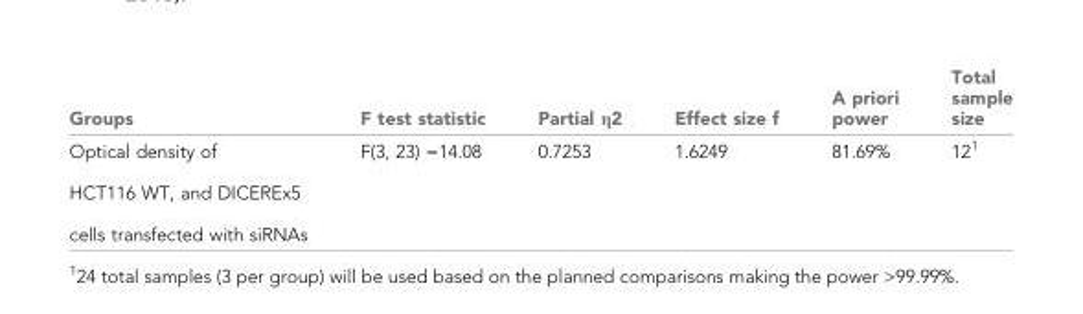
<table><thead><tr><td>Groups</td><td>F test statistic</td><td>Partial η2</td><td>Effect size f</td><td>A priori power</td><td>Total sample size</td></tr></thead><tbody><tr><td>Optical density of HCT116 WT, and DICEREx5 cells transfected with siRNAs</td><td>F(3, 23) =14.08</td><td>0.7253</td><td>1.6249</td><td>81.69%</td><td>12<sup>1</sup></td></tr></tbody></table>